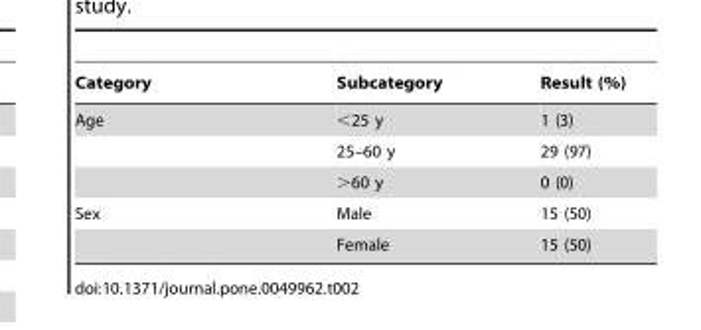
<table><thead><tr><td>Category</td><td>Subcategory</td><td>Result (%)</td></tr></thead><tbody><tr><td rowspan="3">Age</td><td>&lt;25 y</td><td>1 (3)</td></tr><tr><td>25–60 y</td><td>29 (97)</td></tr><tr><td>&gt;60 y</td><td>0 (0)</td></tr><tr><td rowspan="2">Sex</td><td>Male</td><td>15 (50)</td></tr><tr><td>Female</td><td>15 (50)</td></tr></tbody></table>